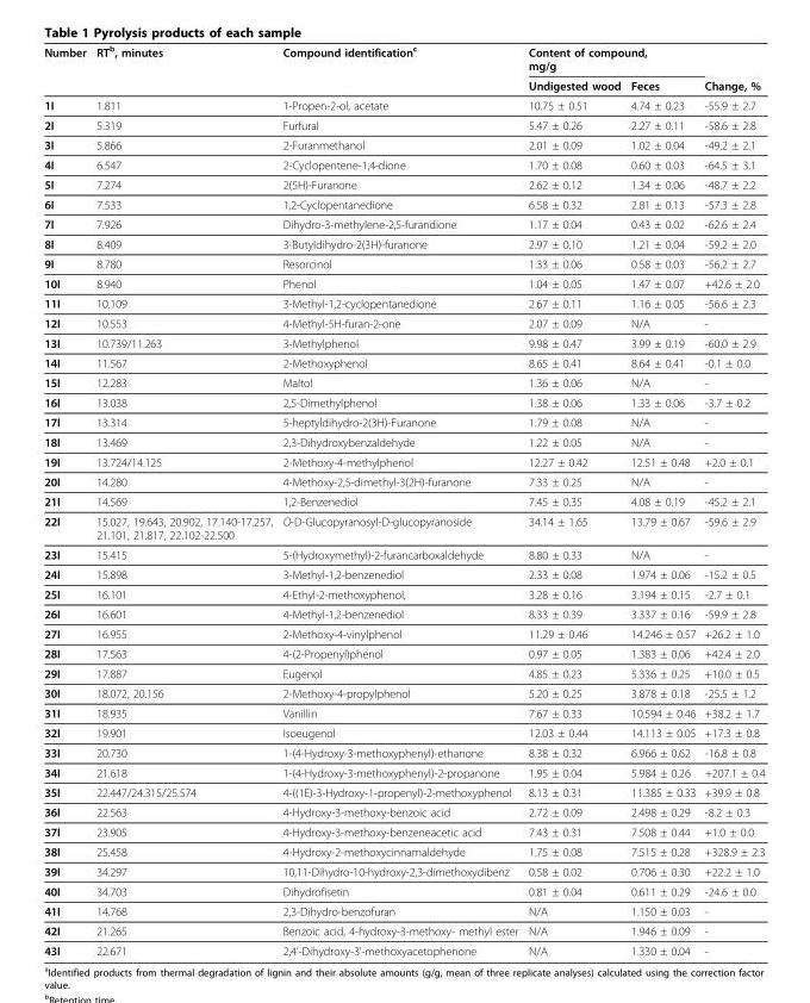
<table><thead><tr><td rowspan="2">Number</td><td rowspan="2">RT<sup>b</sup>, minutes</td><td rowspan="2">Compound identification<sup>c</sup></td><td colspan="2">Content of compound, mg/g</td><td rowspan="2">Change, %</td></tr><tr><td>Undigested wood</td><td>Feces</td></tr></thead><tbody><tr><td>1I</td><td>1.811</td><td>1-Propen-2-ol, acetate</td><td>10.75 ± 0.51</td><td>4.74 ± 0.23</td><td>-55.9 ± 2.7</td></tr><tr><td>2I</td><td>5.319</td><td>Furfural</td><td>5.47 ± 0.26</td><td>2.27 ± 0.11</td><td>-58.6 ± 2.8</td></tr><tr><td>3I</td><td>5.866</td><td>2-Furanmethanol</td><td>2.01 ± 0.09</td><td>1.02 ± 0.04</td><td>-49.2 ± 2.1</td></tr><tr><td>4I</td><td>6.547</td><td>2-Cyclopentene-1,4-dione</td><td>1.70 ± 0.08</td><td>0.60 ± 0.03</td><td>-64.5 ± 3.1</td></tr><tr><td>5I</td><td>7.274</td><td>2(5H)-Furanone</td><td>2.62 ± 0.12</td><td>1.34 ± 0.06</td><td>-48.7 ± 2.2</td></tr><tr><td>6I</td><td>7.533</td><td>1,2-Cyclopentanedione</td><td>6.58 ± 0.32</td><td>2.81 ± 0.13</td><td>-57.3 ± 2.8</td></tr><tr><td>7I</td><td>7.926</td><td>Dihydro-3-methylene-2,5-furandione</td><td>1.17 ± 0.04</td><td>0.43 ± 0.02</td><td>-62.6 ± 2.4</td></tr><tr><td>8I</td><td>8.409</td><td>3-Butyldihydro-2(3H)-furanone</td><td>2.97 ± 0.10</td><td>1.21 ± 0.04</td><td>-59.2 ± 2.0</td></tr><tr><td>9I</td><td>8.780</td><td>Resorcinol</td><td>1.33 ± 0.06</td><td>0.58 ± 0.03</td><td>-56.2 ± 2.7</td></tr><tr><td>10I</td><td>8.940</td><td>Phenol</td><td>1.04 ± 0.05</td><td>1.47 ± 0.07</td><td>+42.6 ± 2.0</td></tr><tr><td>11I</td><td>10.109</td><td>3-Methyl-1,2-cyclopentanedione</td><td>2.67 ± 0.11</td><td>1.16 ± 0.05</td><td>-56.6 ± 2.3</td></tr><tr><td>12I</td><td>10.553</td><td>4-Methyl-5H-furan-2-one</td><td>2.07 ± 0.09</td><td>N/A</td><td>-</td></tr><tr><td>13I</td><td>10.739/11.263</td><td>3-Methylphenol</td><td>9.98 ± 0.47</td><td>3.99 ± 0.19</td><td>-60.0 ± 2.9</td></tr><tr><td>14I</td><td>11.567</td><td>2-Methoxyphenol</td><td>8.65 ± 0.41</td><td>8.64 ± 0.41</td><td>-0.1 ± 0.0</td></tr><tr><td>15I</td><td>12.283</td><td>Maltol</td><td>1.36 ± 0.06</td><td>N/A</td><td>-</td></tr><tr><td>16I</td><td>13.038</td><td>2,5-Dimethylphenol</td><td>1.38 ± 0.06</td><td>1.33 ± 0.06</td><td>-3.7 ± 0.2</td></tr><tr><td>17I</td><td>13.314</td><td>5-heptyldihydro-2(3H)-Furanone</td><td>1.79 ± 0.08</td><td>N/A</td><td>-</td></tr><tr><td>18I</td><td>13.469</td><td>2,3-Dihydroxybenzaldehyde</td><td>1.22 ± 0.05</td><td>N/A</td><td>-</td></tr><tr><td>19I</td><td>13.724/14.125</td><td>2-Methoxy-4-methylphenol</td><td>12.27 ± 0.42</td><td>12.51 ± 0.48</td><td>+2.0 ± 0.1</td></tr><tr><td>20I</td><td>14.280</td><td>4-Methoxy-2,5-dimethyl-3(2H)-furanone</td><td>7.33 ± 0.25</td><td>N/A</td><td>-</td></tr><tr><td>21I</td><td>14.569</td><td>1,2-Benzenediol</td><td>7.45 ± 0.35</td><td>4.08 ± 0.19</td><td>-45.2 ± 2.1</td></tr><tr><td>22I</td><td>15.027, 19.643, 20.902, 17.140-17.257, 21.101, 21.817, 22.102-22.500</td><td>O-D-Glucopyranosyl-D-glucopyranoside</td><td>34.14 ± 1.65</td><td>13.79 ± 0.67</td><td>-59.6 ± 2.9</td></tr><tr><td>23I</td><td>15.415</td><td>5-(Hydroxymethyl)-2-furancarboxaldehyde</td><td>8.80 ± 0.33</td><td>N/A</td><td>-</td></tr><tr><td>24I</td><td>15.898</td><td>3-Methyl-1,2-benzenediol</td><td>2.33 ± 0.08</td><td>1.974 ± 0.06</td><td>-15.2 ± 0.5</td></tr><tr><td>25I</td><td>16.101</td><td>4-Ethyl-2-methoxyphenol,</td><td>3.28 ± 0.16</td><td>3.194 ± 0.15</td><td>-2.7 ± 0.1</td></tr><tr><td>26I</td><td>16.601</td><td>4-Methyl-1,2-benzenediol</td><td>8.33 ± 0.39</td><td>3.337 ± 0.16</td><td>-59.9 ± 2.8</td></tr><tr><td>27I</td><td>16.955</td><td>2-Methoxy-4-vinylphenol</td><td>11.29 ± 0.46</td><td>14.246 ± 0.57</td><td>+26.2 ± 1.0</td></tr><tr><td>28I</td><td>17.563</td><td>4-(2-Propenyl)phenol</td><td>0.97 ± 0.05</td><td>1.383 ± 0.06</td><td>+42.4 ± 2.0</td></tr><tr><td>29I</td><td>17.887</td><td>Eugenol</td><td>4.85 ± 0.23</td><td>5.336 ± 0.25</td><td>+10.0 ± 0.5</td></tr><tr><td>30I</td><td>18.072, 20.156</td><td>2-Methoxy-4-propylphenol</td><td>5.20 ± 0.25</td><td>3.878 ± 0.18</td><td>-25.5 ± 1.2</td></tr><tr><td>31I</td><td>18.935</td><td>Vanillin</td><td>7.67 ± 0.33</td><td>10.594 ± 0.46</td><td>+38.2 ± 1.7</td></tr><tr><td>32I</td><td>19.901</td><td>Isoeugenol</td><td>12.03 ± 0.44</td><td>14.113 ± 0.05</td><td>+17.3 ± 0.8</td></tr><tr><td>33I</td><td>20.730</td><td>1-(4-Hydroxy-3-methoxyphenyl)-ethanone</td><td>8.38 ± 0.32</td><td>6.966 ± 0.62</td><td>-16.8 ± 0.8</td></tr><tr><td>34I</td><td>21.618</td><td>1-(4-Hydroxy-3-methoxyphenyl)-2-propanone</td><td>1.95 ± 0.04</td><td>5.984 ± 0.26</td><td>+207.1 ± 0.4</td></tr><tr><td>35I</td><td>22.447/24.315/25.574</td><td>4-((1E)-3-Hydroxy-1-propenyl)-2-methoxyphenol</td><td>8.13 ± 0.31</td><td>11.385 ± 0.33</td><td>+39.9 ± 0.8</td></tr><tr><td>36I</td><td>22.563</td><td>4-Hydroxy-3-methoxy-benzoic acid</td><td>2.72 ± 0.09</td><td>2.498 ± 0.29</td><td>-8.2 ± 0.3</td></tr><tr><td>37I</td><td>23.905</td><td>4-Hydroxy-3-methoxy-benzeneacetic acid</td><td>7.43 ± 0.31</td><td>7.508 ± 0.44</td><td>+1.0 ± 0.0</td></tr><tr><td>38I</td><td>25.458</td><td>4-Hydroxy-2-methoxycinnamaldehyde</td><td>1.75 ± 0.08</td><td>7.515 ± 0.28</td><td>+328.9 ± 2.3</td></tr><tr><td>39I</td><td>34.297</td><td>10,11-Dihydro-10-hydroxy-2,3-dimethoxydibenz</td><td>0.58 ± 0.02</td><td>0.706 ± 0.30</td><td>+22.2 ± 1.0</td></tr><tr><td>40I</td><td>34.703</td><td>Dihydrofisetin</td><td>0.81 ± 0.04</td><td>0.611 ± 0.29</td><td>-24.6 ± 0.0</td></tr><tr><td>41I</td><td>14.768</td><td>2,3-Dihydro-benzofuran</td><td>N/A</td><td>1.150 ± 0.03</td><td>-</td></tr><tr><td>42I</td><td>21.265</td><td>Benzoic acid, 4-hydroxy-3-methoxy- methyl ester</td><td>N/A</td><td>1.946 ± 0.09</td><td>-</td></tr><tr><td>43I</td><td>22.671</td><td>2,4’-Dihydroxy-3’-methoxyacetophenone</td><td>N/A</td><td>1.330 ± 0.04</td><td>-</td></tr></tbody></table>